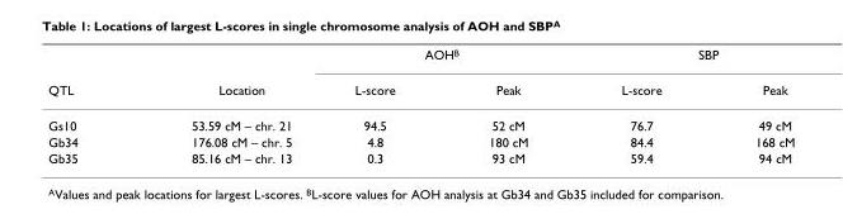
<table><thead><tr><td rowspan="2">QTL</td><td rowspan="2">Location</td><td colspan="2">AOHB</td><td colspan="2">SBP</td></tr><tr><td>L-score</td><td>Peak</td><td>L-score</td><td>Peak</td></tr></thead><tbody><tr><td>Gs10</td><td>53.59 cM – chr. 21</td><td>94.5</td><td>52 cM</td><td>76.7</td><td>49 cM</td></tr><tr><td>Gb34</td><td>176.08 cM – chr. 5</td><td>4.8</td><td>180 cM</td><td>84.4</td><td>168 cM</td></tr><tr><td>Gb35</td><td>85.16 cM – chr. 13</td><td>0.3</td><td>93 cM</td><td>59.4</td><td>94 cM</td></tr></tbody></table>